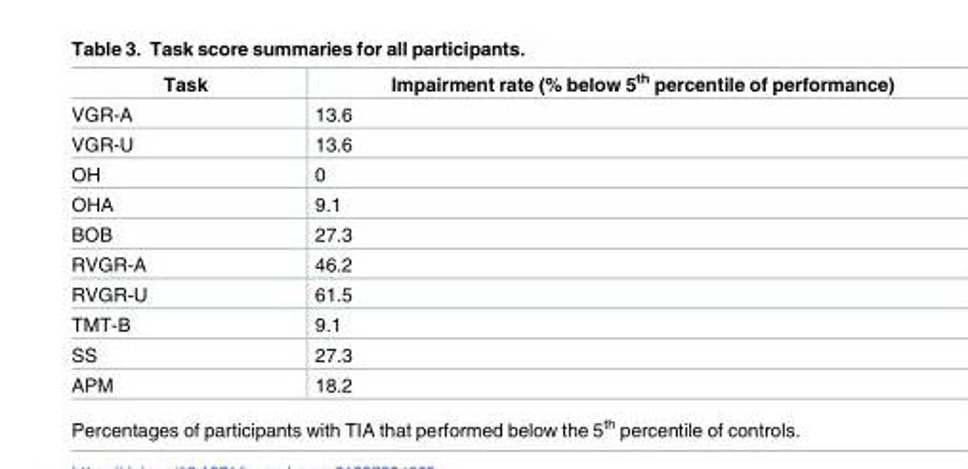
<table><thead><tr><td>Task</td><td>Impairment rate (% below 5<sup>th</sup> percentile of performance)</td></tr></thead><tbody><tr><td>VGR-A</td><td>13.6</td></tr><tr><td>VGR-U</td><td>13.6</td></tr><tr><td>OH</td><td>0</td></tr><tr><td>OHA</td><td>9.1</td></tr><tr><td>BOB</td><td>27.3</td></tr><tr><td>RVGR-A</td><td>46.2</td></tr><tr><td>RVGR-U</td><td>61.5</td></tr><tr><td>TMT-B</td><td>9.1</td></tr><tr><td>SS</td><td>27.3</td></tr><tr><td>APM</td><td>18.2</td></tr></tbody></table>